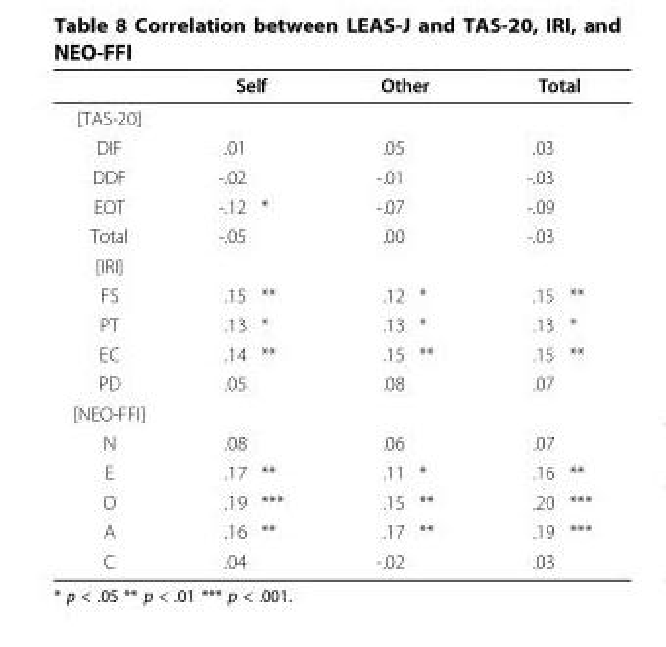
<table><thead><tr><td rowspan="2">[TAS-20]</td><td colspan="2">Self</td><td colspan="2">Other</td><td colspan="2">Total</td></tr><tr><td></td><td></td><td></td><td></td><td></td><td></td></tr></thead><tbody><tr><td>DIF</td><td>.01</td><td></td><td>.05</td><td></td><td>.03</td><td></td></tr><tr><td>DDF</td><td>-.02</td><td></td><td>-.01</td><td></td><td>-.03</td><td></td></tr><tr><td>EOT</td><td>-.12</td><td>*</td><td>-.07</td><td></td><td>-.09</td><td></td></tr><tr><td>Total</td><td>-.05</td><td></td><td>.00</td><td></td><td>-.03</td><td></td></tr><tr><td colspan="7">[IRI]</td></tr><tr><td>FS</td><td>.15</td><td>**</td><td>.12</td><td>*</td><td>.15</td><td>**</td></tr><tr><td>PT</td><td>.13</td><td>*</td><td>.13</td><td>*</td><td>.13</td><td>*</td></tr><tr><td>EC</td><td>.14</td><td>**</td><td>.15</td><td>**</td><td>.15</td><td>**</td></tr><tr><td>PD</td><td>.05</td><td></td><td>.08</td><td></td><td>.07</td><td></td></tr><tr><td colspan="7">[NEO-FFI]</td></tr><tr><td>N</td><td>.08</td><td></td><td>.06</td><td></td><td>.07</td><td></td></tr><tr><td>E</td><td>.17</td><td>**</td><td>.11</td><td>*</td><td>.16</td><td>**</td></tr><tr><td>O</td><td>.19</td><td>***</td><td>.15</td><td>**</td><td>.20</td><td>***</td></tr><tr><td>A</td><td>.16</td><td>**</td><td>.17</td><td>**</td><td>.19</td><td>***</td></tr><tr><td>C</td><td>.04</td><td></td><td>-.02</td><td></td><td>.03</td><td></td></tr></tbody></table>